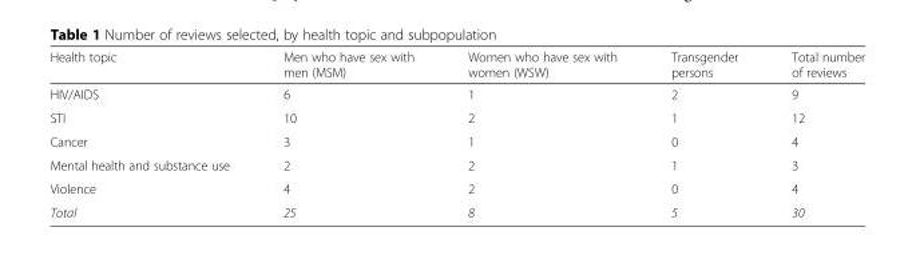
<table><thead><tr><td>Health topic</td><td>Men who have sex with men (MSM)</td><td>Women who have sex with women (WSW)</td><td>Transgender persons</td><td>Total number of reviews</td></tr></thead><tbody><tr><td>HIV/AIDS</td><td>6</td><td>1</td><td>2</td><td>9</td></tr><tr><td>STI</td><td>10</td><td>2</td><td>1</td><td>12</td></tr><tr><td>Cancer</td><td>3</td><td>1</td><td>0</td><td>4</td></tr><tr><td>Mental health and substance use</td><td>2</td><td>2</td><td>1</td><td>3</td></tr><tr><td>Violence</td><td>4</td><td>2</td><td>0</td><td>4</td></tr><tr><td>Total</td><td>25</td><td>8</td><td>5</td><td>30</td></tr></tbody></table>